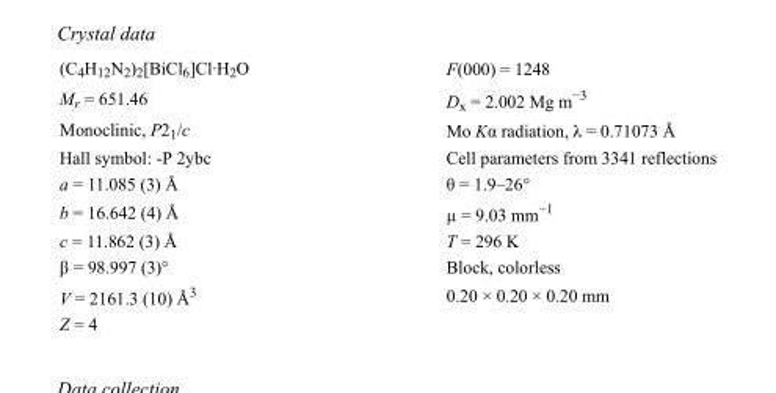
<table><tbody><tr><td>(C<sub>4</sub>H<sub>12</sub>N<sub>2</sub>)<sub>2</sub>[BiCl<sub>6</sub>]Cl·H<sub>2</sub>O</td><td>F(000) = 1248</td></tr><tr><td>M<sub>r</sub> = 651.46</td><td>D<sub>x</sub> = 2.002 Mg m<sup>−3</sup></td></tr><tr><td>Monoclinic, P2<sub>1</sub>/c</td><td>Mo Kα radiation, λ = 0.71073 Å</td></tr><tr><td>Hall symbol: -P 2ybc</td><td>Cell parameters from 3341 reflections</td></tr><tr><td>a = 11.085 (3) Å</td><td>θ = 1.9–26°</td></tr><tr><td>b = 16.642 (4) Å</td><td>µ = 9.03 mm<sup>−1</sup></td></tr><tr><td>c = 11.862 (3) Å</td><td>T = 296 K</td></tr><tr><td>β = 98.997 (3)°</td><td>Block, colorless</td></tr><tr><td>V = 2161.3 (10) Å<sup>3</sup></td><td>0.20 × 0.20 × 0.20 mm</td></tr><tr><td>Z = 4</td><td></td></tr></tbody></table>